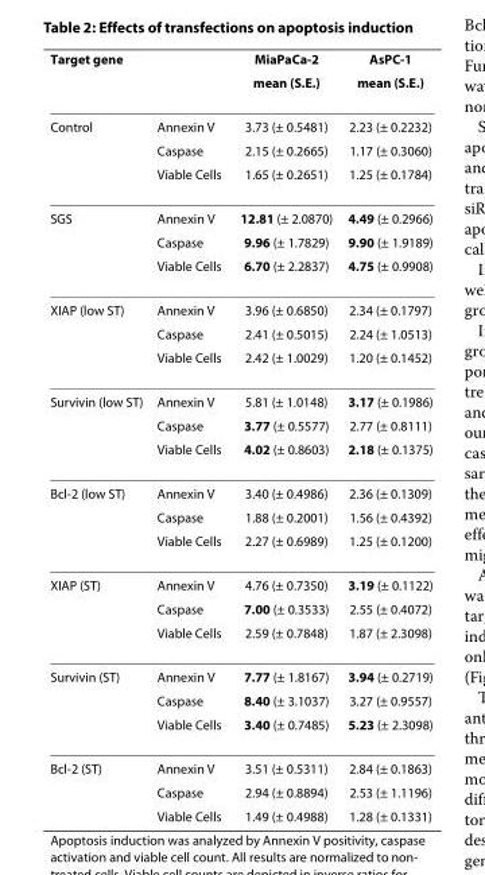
<table><thead><tr><td rowspan="2">Target gene</td><td rowspan="2"></td><td rowspan="2">MiaPaCa-2 mean (S.E.)</td><td rowspan="2">AsPC-1 mean (S.E.)</td></tr><tr></tr></thead><tbody><tr><td rowspan="3">Control</td><td>Annexin V</td><td>3.73 (± 0.5481)</td><td>2.23 (± 0.2232)</td></tr><tr><td>Caspase</td><td>2.15 (± 0.2665)</td><td>1.17 (± 0.3060)</td></tr><tr><td>Viable Cells</td><td>1.65 (± 0.2651)</td><td>1.25 (± 0.1784)</td></tr><tr><td rowspan="3">SGS</td><td>Annexin V</td><td>12.81 (± 2.0870)</td><td>4.49 (± 0.2966)</td></tr><tr><td>Caspase</td><td>9.96 (± 1.7829)</td><td>9.90 (± 1.9189)</td></tr><tr><td>Viable Cells</td><td>6.70 (± 2.2837)</td><td>4.75 (± 0.9908)</td></tr><tr><td rowspan="3">XIAP (low ST)</td><td>Annexin V</td><td>3.96 (± 0.6850)</td><td>2.34 (± 0.1797)</td></tr><tr><td>Caspase</td><td>2.41 (± 0.5015)</td><td>2.24 (± 1.0513)</td></tr><tr><td>Viable Cells</td><td>2.42 (± 1.0029)</td><td>1.20 (± 0.1452)</td></tr><tr><td rowspan="3">Survivin (low ST)</td><td>Annexin V</td><td>5.81 (± 1.0148)</td><td>3.17 (± 0.1986)</td></tr><tr><td>Caspase</td><td>3.77 (± 0.5577)</td><td>2.77 (± 0.8111)</td></tr><tr><td>Viable Cells</td><td>4.02 (± 0.8603)</td><td>2.18 (± 0.1375)</td></tr><tr><td rowspan="3">Bcl-2 (low ST)</td><td>Annexin V</td><td>3.40 (± 0.4986)</td><td>2.36 (± 0.1309)</td></tr><tr><td>Caspase</td><td>1.88 (± 0.2001)</td><td>1.56 (± 0.4392)</td></tr><tr><td>Viable Cells</td><td>2.27 (± 0.6989)</td><td>1.25 (± 0.1200)</td></tr><tr><td rowspan="3">XIAP (ST)</td><td>Annexin V</td><td>4.76 (± 0.7350)</td><td>3.19 (± 0.1122)</td></tr><tr><td>Caspase</td><td>7.00 (± 0.3533)</td><td>2.55 (± 0.4072)</td></tr><tr><td>Viable Cells</td><td>2.59 (± 0.7848)</td><td>1.87 (± 2.3098)</td></tr><tr><td rowspan="3">Survivin (ST)</td><td>Annexin V</td><td>7.77 (± 1.8167)</td><td>3.94 (± 0.2719)</td></tr><tr><td>Caspase</td><td>8.40 (± 3.1037)</td><td>3.27 (± 0.9557)</td></tr><tr><td>Viable Cells</td><td>3.40 (± 0.7485)</td><td>5.23 (± 2.3098)</td></tr><tr><td rowspan="3">Bcl-2 (ST)</td><td>Annexin V</td><td>3.51 (± 0.5311)</td><td>2.84 (± 0.1863)</td></tr><tr><td>Caspase</td><td>2.94 (± 0.8894)</td><td>2.53 (± 1.1196)</td></tr><tr><td>Viable Cells</td><td>1.49 (± 0.4988)</td><td>1.28 (± 0.1331)</td></tr></tbody></table>